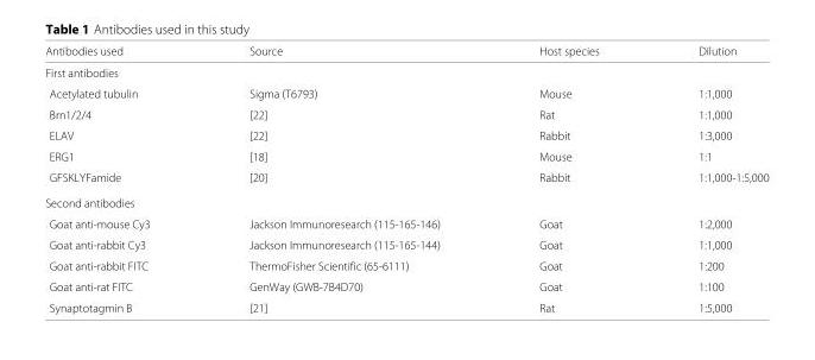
<table><thead><tr><td>Antibodies used</td><td>Source</td><td>Host species</td><td>Dilution</td></tr></thead><tbody><tr><td colspan="4">First antibodies</td></tr><tr><td>Acetylated tubulin</td><td>Sigma (T6793)</td><td>Mouse</td><td>1:1,000</td></tr><tr><td>Brn1/2/4</td><td>[22]</td><td>Rat</td><td>1:1,000</td></tr><tr><td>ELAV</td><td>[22]</td><td>Rabbit</td><td>1:3,000</td></tr><tr><td>ERG1</td><td>[18]</td><td>Mouse</td><td>1:1</td></tr><tr><td>GFSKLYFamide</td><td>[20]</td><td>Rabbit</td><td>1:1,000-1:5,000</td></tr><tr><td colspan="4">Second antibodies</td></tr><tr><td>Goat anti-mouse Cy3</td><td>Jackson Immunoresearch (115-165-146)</td><td>Goat</td><td>1:2,000</td></tr><tr><td>Goat anti-rabbit Cy3</td><td>Jackson Immunoresearch (115-165-144)</td><td>Goat</td><td>1:1,000</td></tr><tr><td>Goat anti-rabbit FITC</td><td>ThermoFisher Scientific (65-6111)</td><td>Goat</td><td>1:200</td></tr><tr><td>Goat anti-rat FITC</td><td>GenWay (GWB-7B4D70)</td><td>Goat</td><td>1:100</td></tr><tr><td>Synaptotagmin B</td><td>[21]</td><td>Rat</td><td>1:5,000</td></tr></tbody></table>